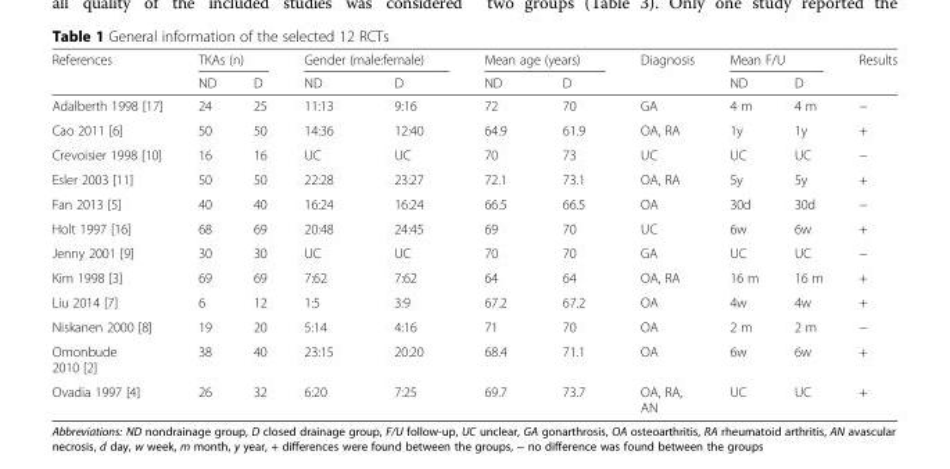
<table><thead><tr><td rowspan="2">References</td><td colspan="2">TKAs (n)</td><td colspan="2">Gender (male:female)</td><td colspan="2">Mean age (years)</td><td rowspan="2">Diagnosis</td><td colspan="2">Mean F/U</td><td rowspan="2">Results</td></tr><tr><td>ND</td><td>D</td><td>ND</td><td>D</td><td>ND</td><td>D</td><td>ND</td><td>D</td></tr></thead><tbody><tr><td>Adalberth 1998 [17]</td><td>24</td><td>25</td><td>11:13</td><td>9:16</td><td>72</td><td>70</td><td>GA</td><td>4 m</td><td>4 m</td><td>−</td></tr><tr><td>Cao 2011 [6]</td><td>50</td><td>50</td><td>14:36</td><td>12:40</td><td>64.9</td><td>61.9</td><td>OA, RA</td><td>1y</td><td>1y</td><td>+</td></tr><tr><td>Crevoisier 1998 [10]</td><td>16</td><td>16</td><td>UC</td><td>UC</td><td>70</td><td>73</td><td>UC</td><td>UC</td><td>UC</td><td>−</td></tr><tr><td>Esler 2003 [11]</td><td>50</td><td>50</td><td>22:28</td><td>23:27</td><td>72.1</td><td>73.1</td><td>OA, RA</td><td>5y</td><td>5y</td><td>+</td></tr><tr><td>Fan 2013 [5]</td><td>40</td><td>40</td><td>16:24</td><td>16:24</td><td>66.5</td><td>66.5</td><td>OA</td><td>30d</td><td>30d</td><td>−</td></tr><tr><td>Holt 1997 [16]</td><td>68</td><td>69</td><td>20:48</td><td>24:45</td><td>69</td><td>70</td><td>UC</td><td>6w</td><td>6w</td><td>+</td></tr><tr><td>Jenny 2001 [9]</td><td>30</td><td>30</td><td>UC</td><td>UC</td><td>70</td><td>70</td><td>GA</td><td>UC</td><td>UC</td><td>−</td></tr><tr><td>Kim 1998 [3]</td><td>69</td><td>69</td><td>7:62</td><td>7:62</td><td>64</td><td>64</td><td>OA, RA</td><td>16 m</td><td>16 m</td><td>+</td></tr><tr><td>Liu 2014 [7]</td><td>6</td><td>12</td><td>1:5</td><td>3:9</td><td>67.2</td><td>67.2</td><td>OA</td><td>4w</td><td>4w</td><td>+</td></tr><tr><td>Niskanen 2000 [8]</td><td>19</td><td>20</td><td>5:14</td><td>4:16</td><td>71</td><td>70</td><td>OA</td><td>2 m</td><td>2 m</td><td>−</td></tr><tr><td>Omonbude 2010 [2]</td><td>38</td><td>40</td><td>23:15</td><td>20:20</td><td>68.4</td><td>71.1</td><td>OA</td><td>6w</td><td>6w</td><td>+</td></tr><tr><td>Ovadia 1997 [4]</td><td>26</td><td>32</td><td>6:20</td><td>7:25</td><td>69.7</td><td>73.7</td><td>OA, RA, AN</td><td>UC</td><td>UC</td><td>+</td></tr></tbody></table>